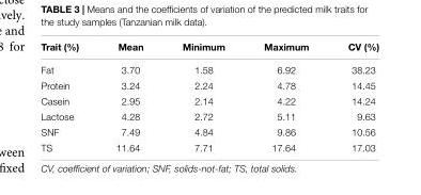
<table><thead><tr><td>Trait (%)</td><td>Mean</td><td>Minimum</td><td>Maximum</td><td>CV (%)</td></tr></thead><tbody><tr><td>Fat</td><td>3.70</td><td>1.58</td><td>6.92</td><td>38.23</td></tr><tr><td>Protein</td><td>3.24</td><td>2.24</td><td>4.78</td><td>14.45</td></tr><tr><td>Casein</td><td>2.95</td><td>2.14</td><td>4.22</td><td>14.24</td></tr><tr><td>Lactose</td><td>4.28</td><td>2.72</td><td>5.11</td><td>9.63</td></tr><tr><td>SNF</td><td>7.49</td><td>4.84</td><td>9.86</td><td>10.56</td></tr><tr><td>TS</td><td>11.64</td><td>7.71</td><td>17.64</td><td>17.03</td></tr></tbody></table>